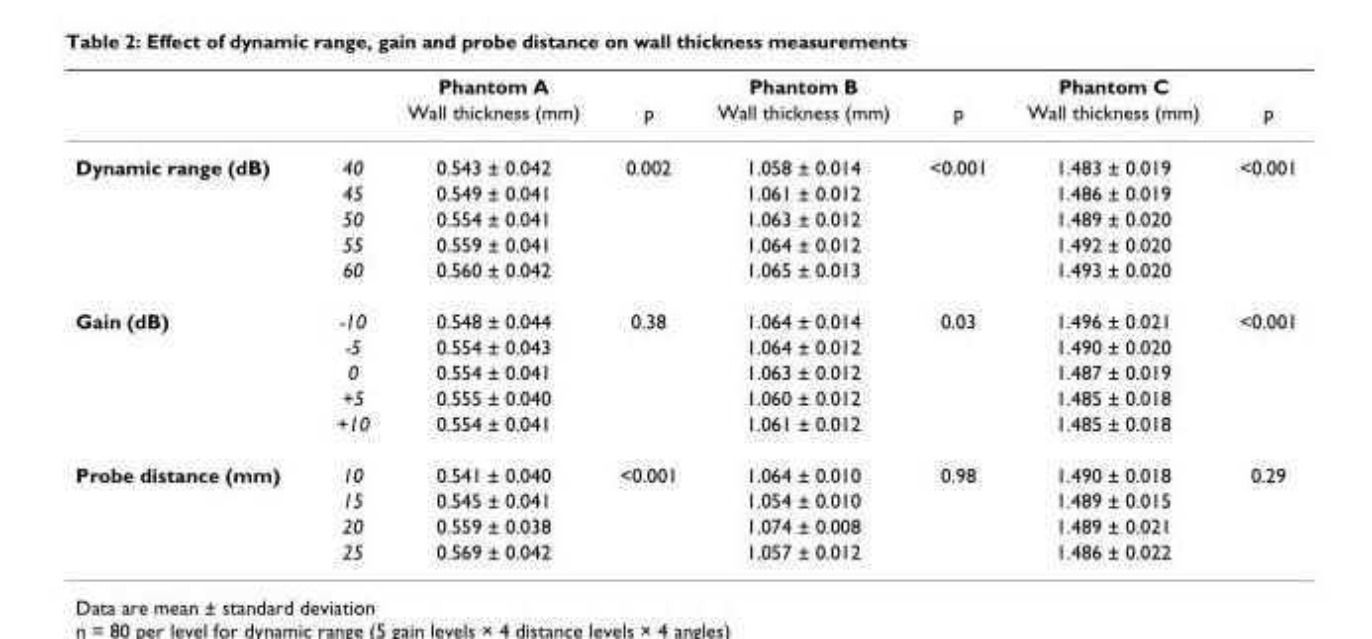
<table><thead><tr><td rowspan="2"></td><td rowspan="2"></td><td rowspan="2">Phantom A Wall thickness (mm)</td><td rowspan="2">p</td><td rowspan="2">Phantom B Wall thickness (mm)</td><td rowspan="2">p</td><td rowspan="2">Phantom C Wall thickness (mm)</td><td rowspan="2">p</td></tr><tr></tr></thead><tbody><tr><td rowspan="5">Dynamic range (dB)</td><td>40</td><td>0.543 ± 0.042</td><td>0.002</td><td>1.058 ± 0.014</td><td>&lt;0.001</td><td>1.483 ± 0.019</td><td>&lt;0.001</td></tr><tr><td>45</td><td>0.549 ± 0.041</td><td></td><td>1.061 ± 0.012</td><td></td><td>1.486 ± 0.019</td><td></td></tr><tr><td>50</td><td>0.554 ± 0.041</td><td></td><td>1.063 ± 0.012</td><td></td><td>1.489 ± 0.020</td><td></td></tr><tr><td>55</td><td>0.559 ± 0.041</td><td></td><td>1.064 ± 0.012</td><td></td><td>1.492 ± 0.020</td><td></td></tr><tr><td>60</td><td>0.560 ± 0.042</td><td></td><td>1.065 ± 0.013</td><td></td><td>1.493 ± 0.020</td><td></td></tr><tr><td rowspan="5">Gain (dB)</td><td>-10</td><td>0.548 ± 0.044</td><td>0.38</td><td>1.064 ± 0.014</td><td>0.03</td><td>1.496 ± 0.021</td><td>&lt;0.001</td></tr><tr><td>-5</td><td>0.554 ± 0.043</td><td></td><td>1.064 ± 0.012</td><td></td><td>1.490 ± 0.020</td><td></td></tr><tr><td>0</td><td>0.554 ± 0.041</td><td></td><td>1.063 ± 0.012</td><td></td><td>1.487 ± 0.019</td><td></td></tr><tr><td>+5</td><td>0.555 ± 0.040</td><td></td><td>1.060 ± 0.012</td><td></td><td>1.485 ± 0.018</td><td></td></tr><tr><td>+10</td><td>0.554 ± 0.041</td><td></td><td>1.061 ± 0.012</td><td></td><td>1.485 ± 0.018</td><td></td></tr><tr><td rowspan="4">Probe distance (mm)</td><td>10</td><td>0.541 ± 0.040</td><td>&lt;0.001</td><td>1.064 ± 0.010</td><td>0.98</td><td>1.490 ± 0.018</td><td>0.29</td></tr><tr><td>15</td><td>0.545 ± 0.041</td><td></td><td>1.054 ± 0.010</td><td></td><td>1.489 ± 0.015</td><td></td></tr><tr><td>20</td><td>0.559 ± 0.038</td><td></td><td>1.074 ± 0.008</td><td></td><td>1.489 ± 0.021</td><td></td></tr><tr><td>25</td><td>0.569 ± 0.042</td><td></td><td>1.057 ± 0.012</td><td></td><td>1.486 ± 0.022</td><td></td></tr></tbody></table>